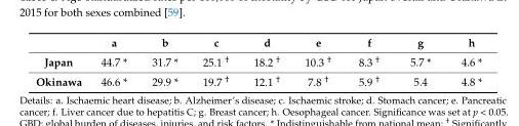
<table><thead><tr><td></td><td>a</td><td>b</td><td>c</td><td>d</td><td>e</td><td>f</td><td>g</td><td>h</td></tr></thead><tbody><tr><td>Japan</td><td>44.7 *</td><td>31.7 *</td><td>25.1 <sup>†</sup></td><td>18.2 <sup>†</sup></td><td>10.3 <sup>†</sup></td><td>8.3 <sup>†</sup></td><td>5.7 *</td><td>4.6 *</td></tr><tr><td>Okinawa</td><td>46.6 *</td><td>29.9 *</td><td>19.7 <sup>†</sup></td><td>12.1 <sup>†</sup></td><td>7.8 <sup>†</sup></td><td>5.9 <sup>†</sup></td><td>5.4</td><td>4.8 *</td></tr></tbody></table>